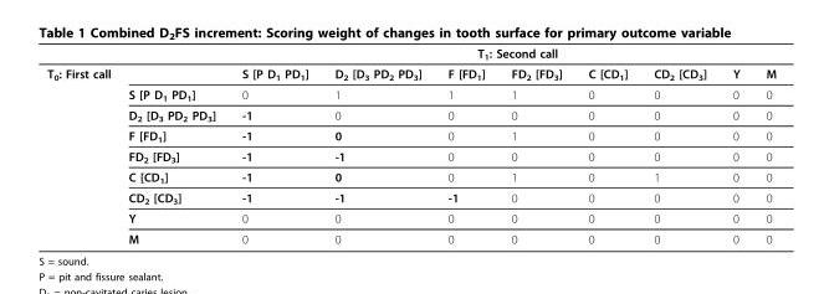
<table><thead><tr><td rowspan="2">T<sub>0</sub>: First call</td><td rowspan="2"></td><td colspan="8">T<sub>1</sub>: Second call</td></tr><tr><td>S [P D1 PD1]</td><td>D<sub>2</sub> [D<sub>3</sub> PD<sub>2</sub> PD<sub>3</sub>]</td><td>F [FD<sub>1</sub>]</td><td>FD<sub>2</sub> [FD<sub>3</sub>]</td><td>C [CD<sub>1</sub>]</td><td>CD<sub>2</sub> [CD<sub>3</sub>]</td><td>Y</td><td>M</td></tr></thead><tbody><tr><td></td><td>S [P D<sub>1</sub> PD<sub>1</sub>]</td><td>0</td><td>1</td><td>1</td><td>1</td><td>0</td><td>0</td><td>0</td><td>0</td></tr><tr><td></td><td>D<sub>2</sub> [D<sub>3</sub> PD<sub>2</sub> PD<sub>3</sub>]</td><td>-1</td><td>0</td><td>0</td><td>0</td><td>0</td><td>0</td><td>0</td><td>0</td></tr><tr><td></td><td>F [FD<sub>1</sub>]</td><td>-1</td><td>0</td><td>0</td><td>1</td><td>0</td><td>0</td><td>0</td><td>0</td></tr><tr><td></td><td>FD<sub>2</sub> [FD<sub>3</sub>]</td><td>-1</td><td>-1</td><td>0</td><td>0</td><td>0</td><td>0</td><td>0</td><td>0</td></tr><tr><td></td><td>C [CD<sub>1</sub>]</td><td>-1</td><td>0</td><td>0</td><td>1</td><td>0</td><td>1</td><td>0</td><td>0</td></tr><tr><td></td><td>CD<sub>2</sub> [CD<sub>3</sub>]</td><td>-1</td><td>-1</td><td>-1</td><td>0</td><td>0</td><td>0</td><td>0</td><td>0</td></tr><tr><td></td><td>Y</td><td>0</td><td>0</td><td>0</td><td>0</td><td>0</td><td>0</td><td>0</td><td>0</td></tr><tr><td></td><td>M</td><td>0</td><td>0</td><td>0</td><td>0</td><td>0</td><td>0</td><td>0</td><td>0</td></tr></tbody></table>